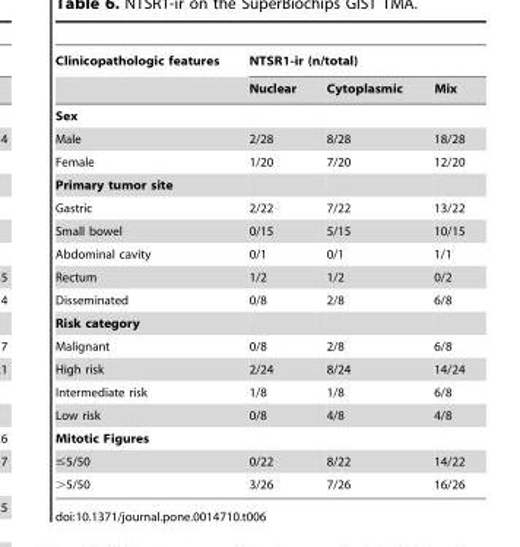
<table><thead><tr><td rowspan="2">Clinicopathologic features</td><td colspan="3">NTSR1-ir (n/total)</td></tr><tr><td>Nuclear</td><td>Cytoplasmic</td><td>Mix</td></tr></thead><tbody><tr><td colspan="4">Sex</td></tr><tr><td>Male</td><td>2/28</td><td>8/28</td><td>18/28</td></tr><tr><td>Female</td><td>1/20</td><td>7/20</td><td>12/20</td></tr><tr><td colspan="4">Primary tumor site</td></tr><tr><td>Gastric</td><td>2/22</td><td>7/22</td><td>13/22</td></tr><tr><td>Small bowel</td><td>0/15</td><td>5/15</td><td>10/15</td></tr><tr><td>Abdominal cavity</td><td>0/1</td><td>0/1</td><td>1/1</td></tr><tr><td>Rectum</td><td>1/2</td><td>1/2</td><td>0/2</td></tr><tr><td>Disseminated</td><td>0/8</td><td>2/8</td><td>6/8</td></tr><tr><td colspan="4">Risk category</td></tr><tr><td>Malignant</td><td>0/8</td><td>2/8</td><td>6/8</td></tr><tr><td>High risk</td><td>2/24</td><td>8/24</td><td>14/24</td></tr><tr><td>Intermediate risk</td><td>1/8</td><td>1/8</td><td>6/8</td></tr><tr><td>Low risk</td><td>0/8</td><td>4/8</td><td>4/8</td></tr><tr><td colspan="4">Mitotic Figures</td></tr><tr><td>≤5/50</td><td>0/22</td><td>8/22</td><td>14/22</td></tr><tr><td>&gt;5/50</td><td>3/26</td><td>7/26</td><td>16/26</td></tr></tbody></table>